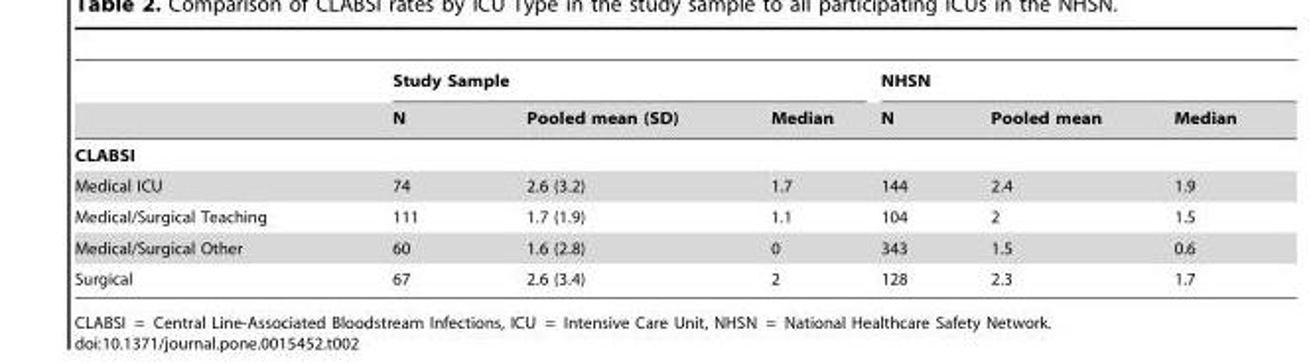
<table><thead><tr><td rowspan="2"></td><td colspan="3">Study Sample</td><td colspan="3">NHSN</td></tr><tr><td>N</td><td>Pooled mean (SD)</td><td>Median</td><td>N</td><td>Pooled mean</td><td>Median</td></tr></thead><tbody><tr><td colspan="7">CLABSI</td></tr><tr><td>Medical ICU</td><td>74</td><td>2.6 (3.2)</td><td>1.7</td><td>144</td><td>2.4</td><td>1.9</td></tr><tr><td>Medical/Surgical Teaching</td><td>111</td><td>1.7 (1.9)</td><td>1.1</td><td>104</td><td>2</td><td>1.5</td></tr><tr><td>Medical/Surgical Other</td><td>60</td><td>1.6 (2.8)</td><td>0</td><td>343</td><td>1.5</td><td>0.6</td></tr><tr><td>Surgical</td><td>67</td><td>2.6 (3.4)</td><td>2</td><td>128</td><td>2.3</td><td>1.7</td></tr></tbody></table>